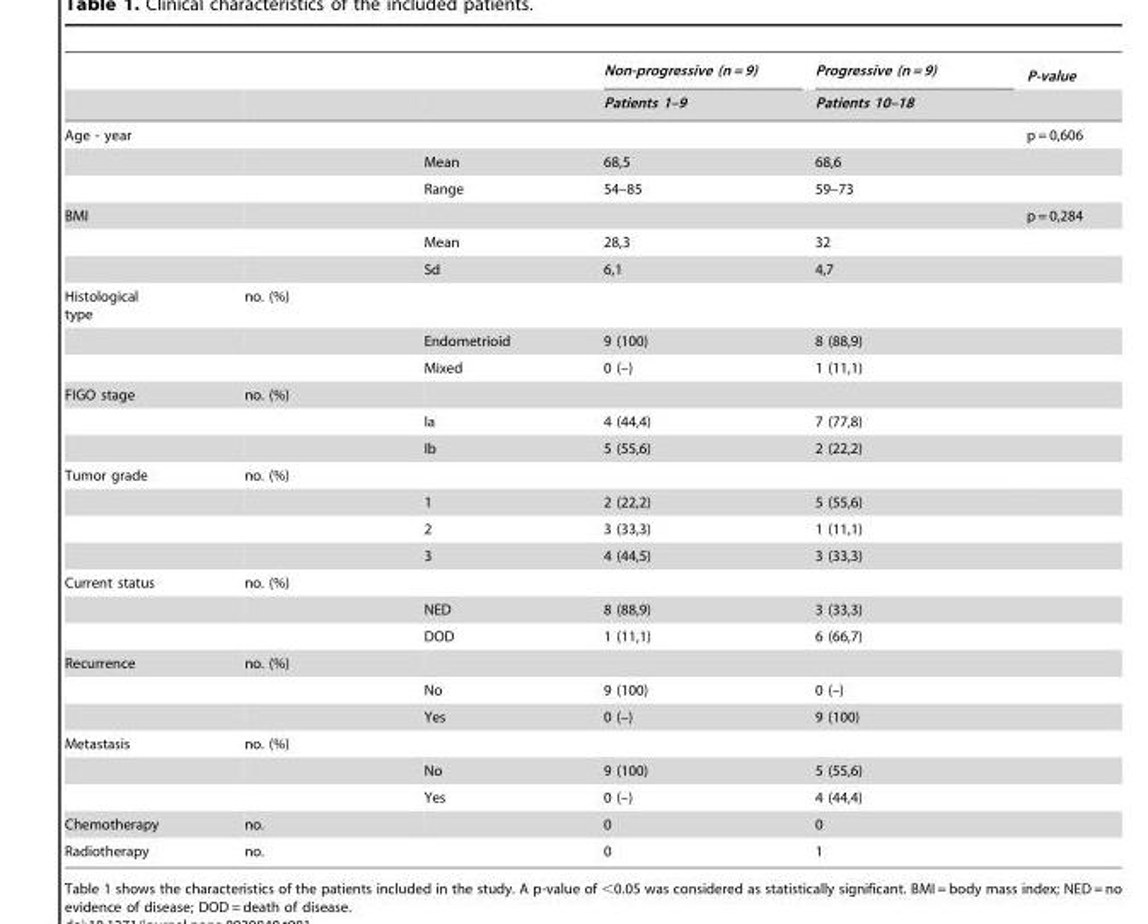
<table><thead><tr><td rowspan="2"></td><td rowspan="2"></td><td rowspan="2"></td><td rowspan="2">Non-progressive (n = 9) Patients 1–9</td><td rowspan="2">Progressive (n = 9) Patients 10–18</td><td rowspan="2">P-value</td></tr><tr></tr></thead><tbody><tr><td rowspan="3">Age - year</td><td></td><td></td><td></td><td></td><td>p = 0,606</td></tr><tr><td></td><td>Mean</td><td>68,5</td><td>68,6</td><td></td></tr><tr><td></td><td>Range</td><td>54–85</td><td>59–73</td><td></td></tr><tr><td rowspan="3">BMI</td><td></td><td></td><td></td><td></td><td>p = 0,284</td></tr><tr><td></td><td>Mean</td><td>28,3</td><td>32</td><td></td></tr><tr><td></td><td>Sd</td><td>6,1</td><td>4,7</td><td></td></tr><tr><td rowspan="3">Histological type</td><td>no. (%)</td><td></td><td></td><td></td><td></td></tr><tr><td></td><td>Endometrioid</td><td>9 (100)</td><td>8 (88,9)</td><td></td></tr><tr><td></td><td>Mixed</td><td>0 (–)</td><td>1 (11,1)</td><td></td></tr><tr><td rowspan="3">FIGO stage</td><td>no. (%)</td><td></td><td></td><td></td><td></td></tr><tr><td></td><td>Ia</td><td>4 (44,4)</td><td>7 (77,8)</td><td></td></tr><tr><td></td><td>Ib</td><td>5 (55,6)</td><td>2 (22,2)</td><td></td></tr><tr><td rowspan="4">Tumor grade</td><td>no. (%)</td><td></td><td></td><td></td><td></td></tr><tr><td></td><td>1</td><td>2 (22,2)</td><td>5 (55,6)</td><td></td></tr><tr><td></td><td>2</td><td>3 (33,3)</td><td>1 (11,1)</td><td></td></tr><tr><td></td><td>3</td><td>4 (44,5)</td><td>3 (33,3)</td><td></td></tr><tr><td rowspan="3">Current status</td><td>no. (%)</td><td></td><td></td><td></td><td></td></tr><tr><td></td><td>NED</td><td>8 (88,9)</td><td>3 (33,3)</td><td></td></tr><tr><td></td><td>DOD</td><td>1 (11,1)</td><td>6 (66,7)</td><td></td></tr><tr><td rowspan="3">Recurrence</td><td>no. (%)</td><td></td><td></td><td></td><td></td></tr><tr><td></td><td>No</td><td>9 (100)</td><td>0 (–)</td><td></td></tr><tr><td></td><td>Yes</td><td>0 (–)</td><td>9 (100)</td><td></td></tr><tr><td rowspan="3">Metastasis</td><td>no. (%)</td><td></td><td></td><td></td><td></td></tr><tr><td></td><td>No</td><td>9 (100)</td><td>5 (55,6)</td><td></td></tr><tr><td></td><td>Yes</td><td>0 (–)</td><td>4 (44,4)</td><td></td></tr><tr><td>Chemotherapy</td><td>no.</td><td></td><td>0</td><td>0</td><td></td></tr><tr><td>Radiotherapy</td><td>no.</td><td></td><td>0</td><td>1</td><td></td></tr></tbody></table>